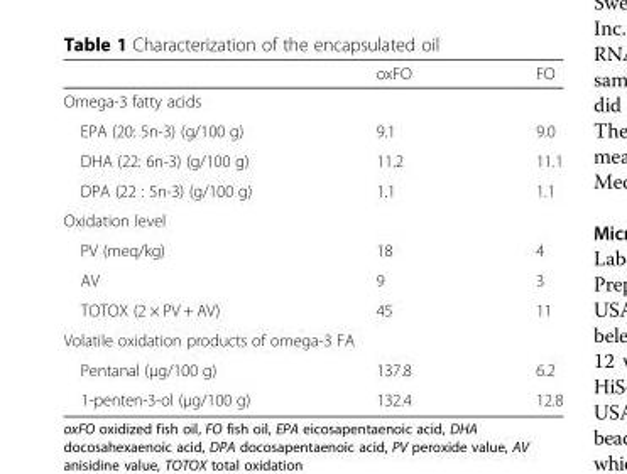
<table><thead><tr><td></td><td>oxFO</td><td>FO</td></tr></thead><tbody><tr><td colspan="3">Omega-3 fatty acids</td></tr><tr><td>EPA (20: 5n-3) (g/100 g)</td><td>9.1</td><td>9.0</td></tr><tr><td>DHA (22: 6n-3) (g/100 g)</td><td>11.2</td><td>11.1</td></tr><tr><td>DPA (22 : 5n-3) (g/100 g)</td><td>1.1</td><td>1.1</td></tr><tr><td colspan="3">Oxidation level</td></tr><tr><td>PV (meq/kg)</td><td>18</td><td>4</td></tr><tr><td>AV</td><td>9</td><td>3</td></tr><tr><td>TOTOX (2 × PV + AV)</td><td>45</td><td>11</td></tr><tr><td colspan="3">Volatile oxidation products of omega-3 FA</td></tr><tr><td>Pentanal (μg/100 g)</td><td>137.8</td><td>6.2</td></tr><tr><td>1-penten-3-ol (μg/100 g)</td><td>132.4</td><td>12.8</td></tr></tbody></table>